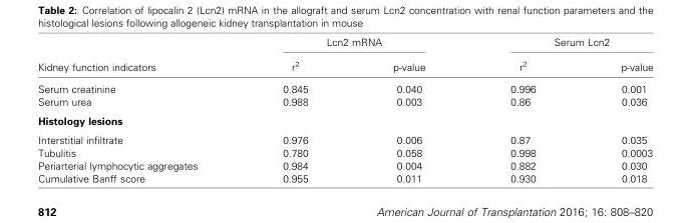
<table><thead><tr><td rowspan="2">Kidney function indicators</td><td colspan="2">Lcn2 mRNA</td><td colspan="2">Serum Lcn2</td></tr><tr><td>r<sup>2</sup></td><td>p-value</td><td>r<sup>2</sup></td><td>p-value</td></tr></thead><tbody><tr><td>Serum creatinine</td><td>0.845</td><td>0.040</td><td>0.996</td><td>0.001</td></tr><tr><td>Serum urea</td><td>0.988</td><td>0.003</td><td>0.86</td><td>0.036</td></tr><tr><td colspan="5">Histology lesions</td></tr><tr><td>Interstitial infiltrate</td><td>0.976</td><td>0.006</td><td>0.87</td><td>0.035</td></tr><tr><td>Tubulitis</td><td>0.780</td><td>0.058</td><td>0.998</td><td>0.0003</td></tr><tr><td>Periarterial lymphocytic aggregates</td><td>0.984</td><td>0.004</td><td>0.882</td><td>0.030</td></tr><tr><td>Cumulative Banff score</td><td>0.955</td><td>0.011</td><td>0.930</td><td>0.018</td></tr></tbody></table>